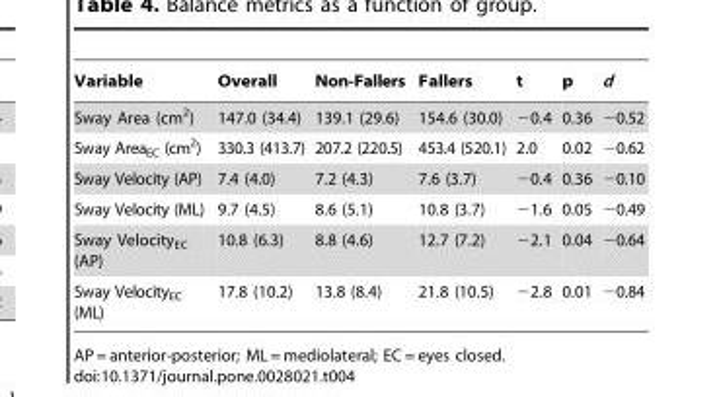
<table><thead><tr><td>Variable</td><td>Overall</td><td>Non-Fallers</td><td>Fallers</td><td>t</td><td>p</td><td>d</td></tr></thead><tbody><tr><td>Sway Area (cm<sup>2</sup>)</td><td>147.0 (34.4)</td><td>139.1 (29.6)</td><td>154.6 (30.0)</td><td>−0.4</td><td>0.36</td><td>−0.52</td></tr><tr><td>Sway Area<sub>EC</sub> (cm<sup>2</sup>)</td><td>330.3 (413.7)</td><td>207.2 (220.5)</td><td>453.4 (520.1)</td><td>2.0</td><td>0.02</td><td>−0.62</td></tr><tr><td>Sway Velocity (AP)</td><td>7.4 (4.0)</td><td>7.2 (4.3)</td><td>7.6 (3.7)</td><td>−0.4</td><td>0.36</td><td>−0.10</td></tr><tr><td>Sway Velocity (ML)</td><td>9.7 (4.5)</td><td>8.6 (5.1)</td><td>10.8 (3.7)</td><td>−1.6</td><td>0.05</td><td>−0.49</td></tr><tr><td>Sway Velocity<sub>EC</sub> (AP)</td><td>10.8 (6.3)</td><td>8.8 (4.6)</td><td>12.7 (7.2)</td><td>−2.1</td><td>0.04</td><td>−0.64</td></tr><tr><td>Sway Velocity<sub>EC</sub> (ML)</td><td>17.8 (10.2)</td><td>13.8 (8.4)</td><td>21.8 (10.5)</td><td>−2.8</td><td>0.01</td><td>−0.84</td></tr></tbody></table>